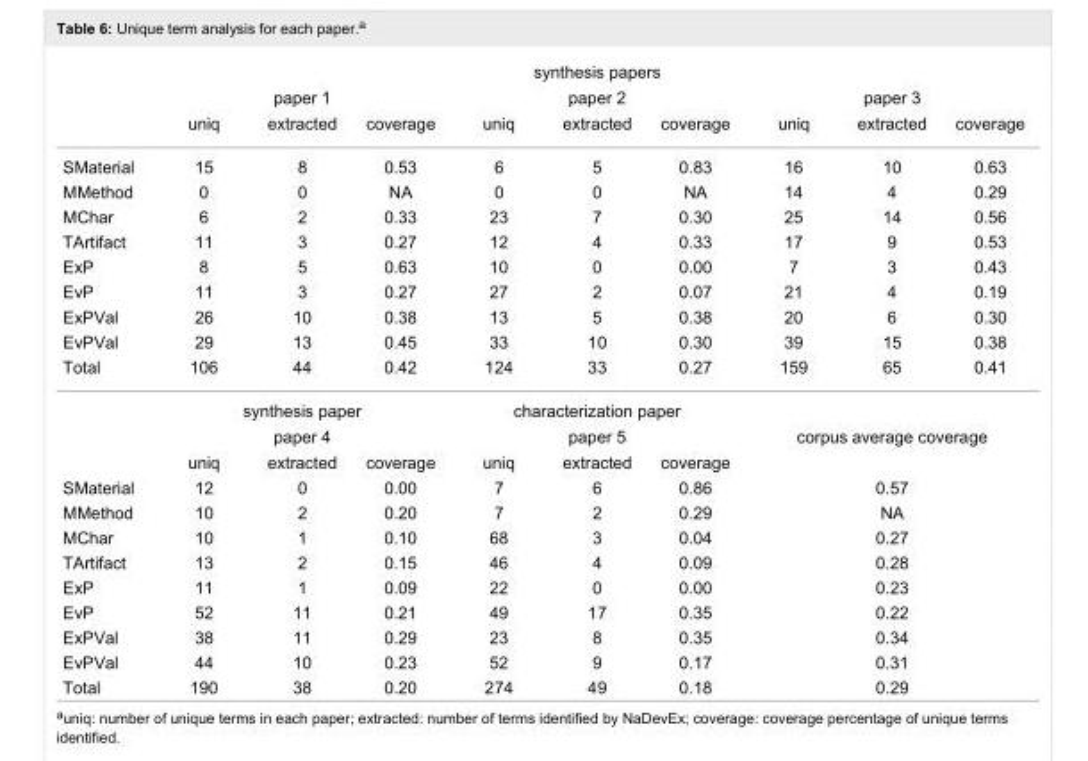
<table><thead><tr><td rowspan="3"></td><td colspan="9">synthesis papers</td></tr><tr><td colspan="3">paper 1</td><td colspan="3">paper 2</td><td colspan="3">paper 3</td></tr><tr><td>uniq</td><td>extracted</td><td>coverage</td><td>uniq</td><td>extracted</td><td>coverage</td><td>uniq</td><td>extracted</td><td>coverage</td></tr></thead><tbody><tr><td>SMaterial</td><td>15</td><td>8</td><td>0.53</td><td>6</td><td>5</td><td>0.83</td><td>16</td><td>10</td><td>0.63</td></tr><tr><td>MMethod</td><td>0</td><td>0</td><td>NA</td><td>0</td><td>0</td><td>NA</td><td>14</td><td>4</td><td>0.29</td></tr><tr><td>MChar</td><td>6</td><td>2</td><td>0.33</td><td>23</td><td>7</td><td>0.30</td><td>25</td><td>14</td><td>0.56</td></tr><tr><td>TArtifact</td><td>11</td><td>3</td><td>0.27</td><td>12</td><td>4</td><td>0.33</td><td>17</td><td>9</td><td>0.53</td></tr><tr><td>ExP</td><td>8</td><td>5</td><td>0.63</td><td>10</td><td>0</td><td>0.00</td><td>7</td><td>3</td><td>0.43</td></tr><tr><td>EvP</td><td>11</td><td>3</td><td>0.27</td><td>27</td><td>2</td><td>0.07</td><td>21</td><td>4</td><td>0.19</td></tr><tr><td>ExPVal</td><td>26</td><td>10</td><td>0.38</td><td>13</td><td>5</td><td>0.38</td><td>20</td><td>6</td><td>0.30</td></tr><tr><td>EvPVal</td><td>29</td><td>13</td><td>0.45</td><td>33</td><td>10</td><td>0.30</td><td>39</td><td>15</td><td>0.38</td></tr><tr><td rowspan="4">Total</td><td>106</td><td>44</td><td>0.42</td><td>124</td><td>33</td><td>0.27</td><td>159</td><td>65</td><td>0.41</td></tr><tr><td colspan="3">synthesis paper</td><td colspan="3">characterization paper</td><td colspan="3"></td></tr><tr><td colspan="3">paper 4</td><td colspan="3">paper 5</td><td colspan="3">corpus average coverage</td></tr><tr><td>uniq</td><td>extracted</td><td>coverage</td><td>uniq</td><td>extracted</td><td>coverage</td><td></td><td></td><td></td></tr><tr><td>SMaterial</td><td>12</td><td>0</td><td>0.00</td><td>7</td><td>6</td><td>0.86</td><td colspan="3">0.57</td></tr><tr><td>MMethod</td><td>10</td><td>2</td><td>0.20</td><td>7</td><td>2</td><td>0.29</td><td colspan="3">NA</td></tr><tr><td>MChar</td><td>10</td><td>1</td><td>0.10</td><td>68</td><td>3</td><td>0.04</td><td colspan="3">0.27</td></tr><tr><td>TArtifact</td><td>13</td><td>2</td><td>0.15</td><td>46</td><td>4</td><td>0.09</td><td colspan="3">0.28</td></tr><tr><td>ExP</td><td>11</td><td>1</td><td>0.09</td><td>22</td><td>0</td><td>0.00</td><td colspan="3">0.23</td></tr><tr><td>EvP</td><td>52</td><td>11</td><td>0.21</td><td>49</td><td>17</td><td>0.35</td><td colspan="3">0.22</td></tr><tr><td>ExPVal</td><td>38</td><td>11</td><td>0.29</td><td>23</td><td>8</td><td>0.35</td><td colspan="3">0.34</td></tr><tr><td>EvPVal</td><td>44</td><td>10</td><td>0.23</td><td>52</td><td>9</td><td>0.17</td><td colspan="3">0.31</td></tr><tr><td>Total</td><td>190</td><td>38</td><td>0.20</td><td>274</td><td>49</td><td>0.18</td><td colspan="3">0.29</td></tr></tbody></table>